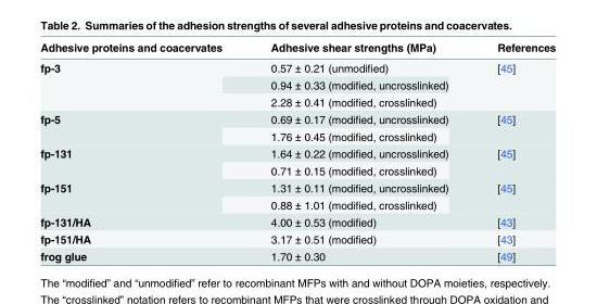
<table><thead><tr><td>Adhesive proteins and coacervates</td><td>Adhesive shear strengths (MPa)</td><td>References</td></tr></thead><tbody><tr><td rowspan="3">fp-3</td><td>0.57 ± 0.21 (unmodified)</td><td rowspan="3">[45]</td></tr><tr><td>0.94 ± 0.33 (modified, uncrosslinked)</td></tr><tr><td>2.28 ± 0.41 (modified, crosslinked)</td></tr><tr><td rowspan="2">fp-5</td><td>0.69 ± 0.17 (modified, uncrosslinked)</td><td rowspan="2">[45]</td></tr><tr><td>1.76 ± 0.45 (modified, crosslinked)</td></tr><tr><td rowspan="2">fp-131</td><td>1.64 ± 0.22 (modified, uncrosslinked)</td><td rowspan="2">[45]</td></tr><tr><td>0.71 ± 0.15 (modified, crosslinked)</td></tr><tr><td rowspan="2">fp-151</td><td>1.31 ± 0.11 (modified, uncrosslinked)</td><td rowspan="2">[45]</td></tr><tr><td>0.88 ± 1.01 (modified, crosslinked)</td></tr><tr><td>fp-131/HA</td><td>4.00 ± 0.53 (modified)</td><td>[43]</td></tr><tr><td>fp-151/HA</td><td>3.17 ± 0.51 (modified)</td><td>[43]</td></tr><tr><td>frog glue</td><td>1.70 ± 0.30</td><td>[49]</td></tr></tbody></table>